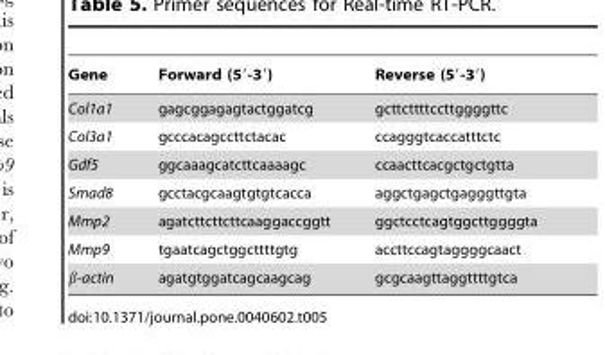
<table><thead><tr><td>Gene</td><td>Forward (5′-3′)</td><td>Reverse (5′-3′)</td></tr></thead><tbody><tr><td>Col1a1</td><td>gagcggagagtactggatcg</td><td>gcttcttttccttggggttc</td></tr><tr><td>Col3a1</td><td>gcccacagccttctacac</td><td>ccagggtcaccatttctc</td></tr><tr><td>Gdf5</td><td>ggcaaagcatcttcaaaagc</td><td>ccaacttcacgctgctgtta</td></tr><tr><td>Smad8</td><td>gcctacgcaagtgtgtcacca</td><td>aggctgagctgagggttgta</td></tr><tr><td>Mmp2</td><td>agatcttcttcttcaaggaccggtt</td><td>ggctcctcagtggcttggggta</td></tr><tr><td>Mmp9</td><td>tgaatcagctggcttttgtg</td><td>accttccagtaggggcaact</td></tr><tr><td>β-actin</td><td>agatgtggatcagcaagcag</td><td>gcgcaagttaggttttgtca</td></tr></tbody></table>